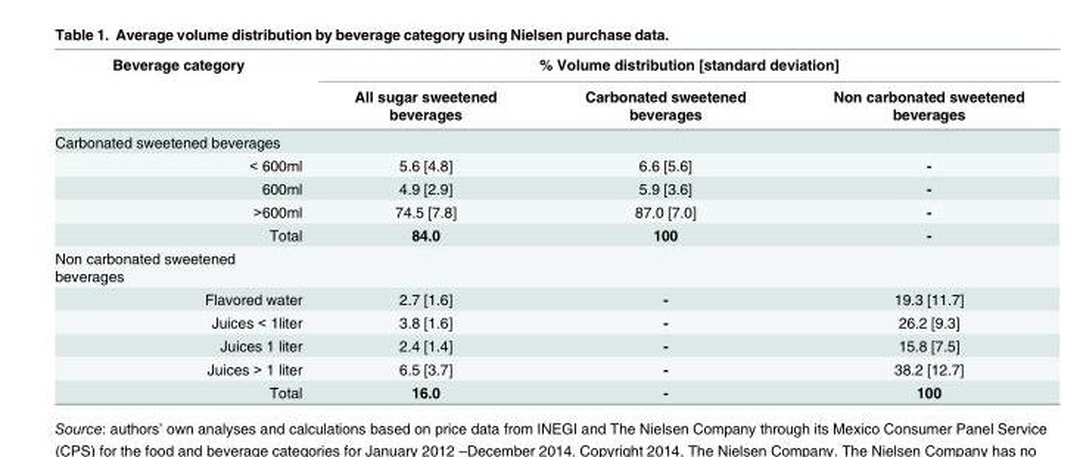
<table><thead><tr><td rowspan="2">Beverage category</td><td colspan="3">% Volume distribution [standard deviation]</td></tr><tr><td>All sugar sweetened beverages</td><td>Carbonated sweetened beverages</td><td>Non carbonated sweetened beverages</td></tr></thead><tbody><tr><td colspan="4">Carbonated sweetened beverages</td></tr><tr><td>&lt; 600ml</td><td>5.6 [4.8]</td><td>6.6 [5.6]</td><td>-</td></tr><tr><td>600ml</td><td>4.9 [2.9]</td><td>5.9 [3.6]</td><td>-</td></tr><tr><td>&gt;600ml</td><td>74.5 [7.8]</td><td>87.0 [7.0]</td><td>-</td></tr><tr><td>Total</td><td>84.0</td><td>100</td><td>-</td></tr><tr><td colspan="4">Non carbonated sweetened beverages</td></tr><tr><td>Flavored water</td><td>2.7 [1.6]</td><td>-</td><td>19.3 [11.7]</td></tr><tr><td>Juices &lt; 1liter</td><td>3.8 [1.6]</td><td>-</td><td>26.2 [9.3]</td></tr><tr><td>Juices 1 liter</td><td>2.4 [1.4]</td><td>-</td><td>15.8 [7.5]</td></tr><tr><td>Juices &gt; 1 liter</td><td>6.5 [3.7]</td><td>-</td><td>38.2 [12.7]</td></tr><tr><td>Total</td><td>16.0</td><td>-</td><td>100</td></tr></tbody></table>